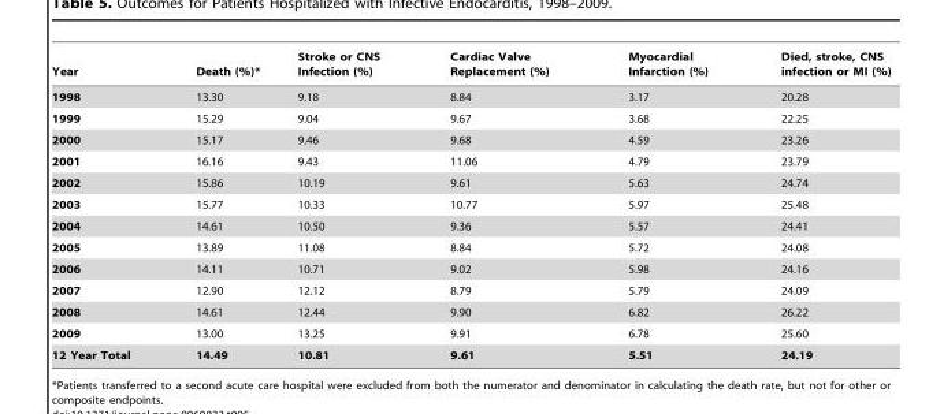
<table><thead><tr><td>Year</td><td>Death (%)*</td><td>Stroke or CNS Infection (%)</td><td>Cardiac Valve Replacement (%)</td><td>Myocardial Infarction (%)</td><td>Died, stroke, CNS infection or MI (%)</td></tr></thead><tbody><tr><td>1998</td><td>13.30</td><td>9.18</td><td>8.84</td><td>3.17</td><td>20.28</td></tr><tr><td>1999</td><td>15.29</td><td>9.04</td><td>9.67</td><td>3.68</td><td>22.25</td></tr><tr><td>2000</td><td>15.17</td><td>9.46</td><td>9.68</td><td>4.59</td><td>23.26</td></tr><tr><td>2001</td><td>16.16</td><td>9.43</td><td>11.06</td><td>4.79</td><td>23.79</td></tr><tr><td>2002</td><td>15.86</td><td>10.19</td><td>9.61</td><td>5.63</td><td>24.74</td></tr><tr><td>2003</td><td>15.77</td><td>10.33</td><td>10.77</td><td>5.97</td><td>25.48</td></tr><tr><td>2004</td><td>14.61</td><td>10.50</td><td>9.36</td><td>5.57</td><td>24.41</td></tr><tr><td>2005</td><td>13.89</td><td>11.08</td><td>8.84</td><td>5.72</td><td>24.08</td></tr><tr><td>2006</td><td>14.11</td><td>10.71</td><td>9.02</td><td>5.98</td><td>24.16</td></tr><tr><td>2007</td><td>12.90</td><td>12.12</td><td>8.79</td><td>5.79</td><td>24.09</td></tr><tr><td>2008</td><td>14.61</td><td>12.44</td><td>9.90</td><td>6.82</td><td>26.22</td></tr><tr><td>2009</td><td>13.00</td><td>13.25</td><td>9.91</td><td>6.78</td><td>25.60</td></tr><tr><td>12 Year Total</td><td>14.49</td><td>10.81</td><td>9.61</td><td>5.51</td><td>24.19</td></tr></tbody></table>